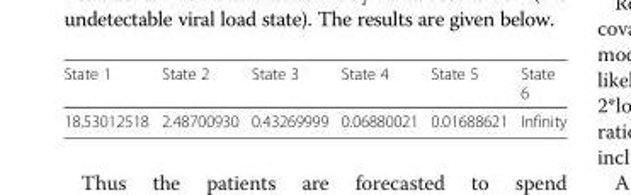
<table><thead><tr><td>State 1</td><td>State 2</td><td>State 3</td><td>State 4</td><td>State 5</td><td>State 6</td></tr></thead><tbody><tr><td>18.53012518</td><td>2.48700930</td><td>0.43269999</td><td>0.06880021</td><td>0.01688621</td><td>Infinity</td></tr></tbody></table>